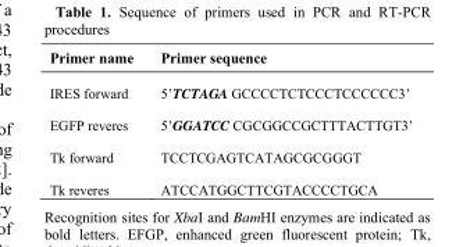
<table><thead><tr><td>Primer name</td><td>Primer sequence</td></tr></thead><tbody><tr><td>IRES forward</td><td>5’TCTAGA GCCCCTCTCCCTCCCCCC3’</td></tr><tr><td>EGFP reveres</td><td>5’GGATCC CGCGGCCGCTTTACTTGT3’</td></tr><tr><td>Tk forward</td><td>TCCTCGAGTCATAGCGCGGGT</td></tr><tr><td>Tk reveres</td><td>ATCCATGGCTTCGTACCCCTGCA</td></tr></tbody></table>